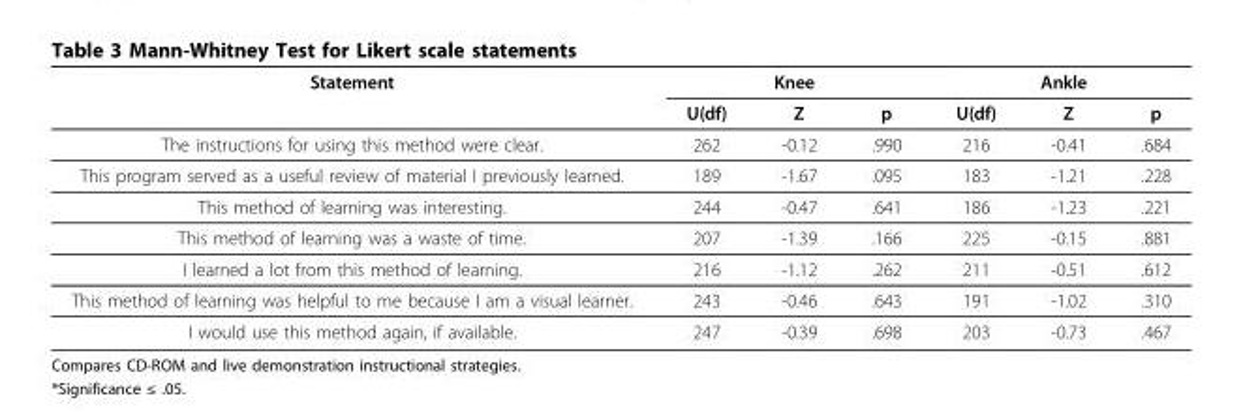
<table><thead><tr><td rowspan="2">Statement</td><td colspan="3">Knee</td><td colspan="3">Ankle</td></tr><tr><td>U(df)</td><td>Z</td><td>p</td><td>U(df)</td><td>Z</td><td>p</td></tr></thead><tbody><tr><td>The instructions for using this method were clear.</td><td>262</td><td>-0.12</td><td>.990</td><td>216</td><td>-0.41</td><td>.684</td></tr><tr><td>This program served as a useful review of material I previously learned.</td><td>189</td><td>-1.67</td><td>.095</td><td>183</td><td>-1.21</td><td>.228</td></tr><tr><td>This method of learning was interesting.</td><td>244</td><td>-0.47</td><td>.641</td><td>186</td><td>-1.23</td><td>.221</td></tr><tr><td>This method of learning was a waste of time.</td><td>207</td><td>-1.39</td><td>.166</td><td>225</td><td>-0.15</td><td>.881</td></tr><tr><td>I learned a lot from this method of learning.</td><td>216</td><td>-1.12</td><td>.262</td><td>211</td><td>-0.51</td><td>.612</td></tr><tr><td>This method of learning was helpful to me because I am a visual learner.</td><td>243</td><td>-0.46</td><td>.643</td><td>191</td><td>-1.02</td><td>.310</td></tr><tr><td>I would use this method again, if available.</td><td>247</td><td>-0.39</td><td>.698</td><td>203</td><td>-0.73</td><td>.467</td></tr></tbody></table>